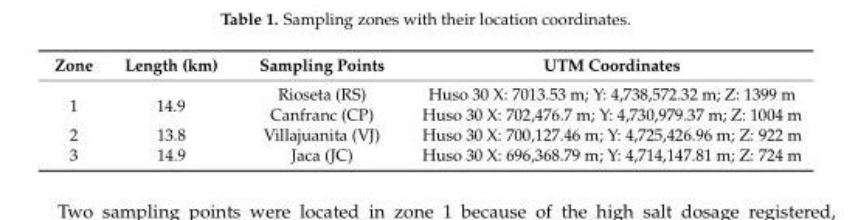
<table><thead><tr><td>Zone</td><td>Length (km)</td><td>Sampling Points</td><td>UTM Coordinates</td></tr></thead><tbody><tr><td rowspan="2">1</td><td rowspan="2">14.9</td><td>Rioseta (RS)</td><td>Huso 30 X: 7013.53 m; Y: 4,738,572.32 m; Z: 1399 m</td></tr><tr><td>Canfranc (CP)</td><td>Huso 30 X: 702,476.7 m; Y: 4,730,979.37 m; Z: 1004 m</td></tr><tr><td>2</td><td>13.8</td><td>Villajuanita (VJ)</td><td>Huso 30 X: 700,127.46 m; Y: 4,725,426.96 m; Z: 922 m</td></tr><tr><td>3</td><td>14.9</td><td>Jaca (JC)</td><td>Huso 30 X: 696,368.79 m; Y: 4,714,147.81 m; Z: 724 m</td></tr></tbody></table>